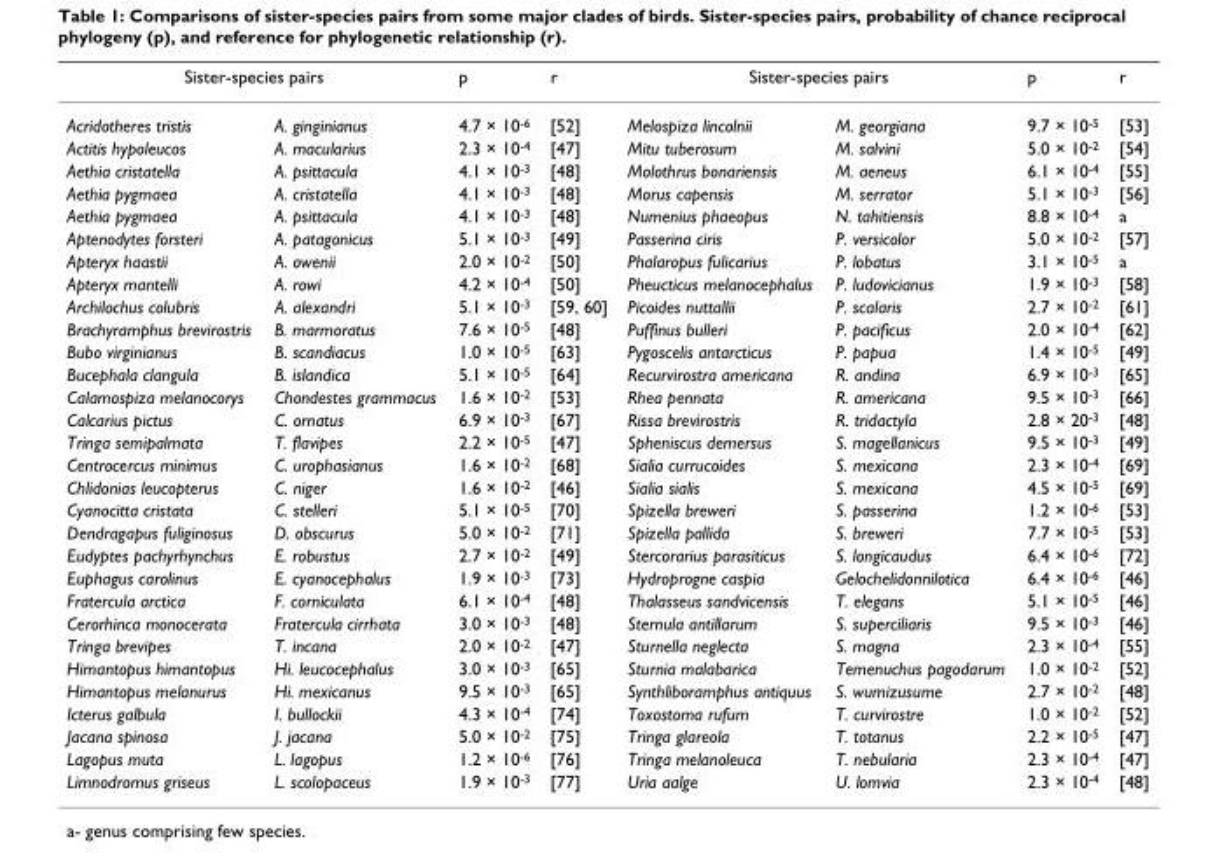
<table><thead><tr><td colspan="2">Sister-species pairs</td><td rowspan="2">p 4.7 × 10<sup>-6</sup></td><td rowspan="2">r [52]</td><td colspan="2">Sister-species pairs</td><td rowspan="2">p 9.7 × 10<sup>-5</sup></td><td rowspan="2">r [53]</td></tr><tr><td>Acridotheres tristis</td><td>A. ginginianus</td><td>Melospiza lincolnii</td><td>M. georgiana</td></tr></thead><tbody><tr><td>Actitis hypoleucos</td><td>A. macularius</td><td>2.3 × 10<sup>-4</sup></td><td>[47]</td><td>Mitu tuberosum</td><td>M. salvini</td><td>5.0 × 10<sup>-2</sup></td><td>[54]</td></tr><tr><td>Aethia cristatella</td><td>A. psittacula</td><td>4.1 × 10<sup>-3</sup></td><td>[48]</td><td>Molothrus bonariensis</td><td>M. aeneus</td><td>6.1 × 10<sup>-4</sup></td><td>[55]</td></tr><tr><td>Aethia pygmaea</td><td>A. cristatella</td><td>4.1 × 10<sup>-3</sup></td><td>[48]</td><td>Morus capensis</td><td>M. serrator</td><td>5.1 × 10<sup>-3</sup></td><td>[56]</td></tr><tr><td>Aethia pygmaea</td><td>A. psittacula</td><td>4.1 × 10<sup>-3</sup></td><td>[48]</td><td>Numenius phaeopus</td><td>N. tahitiensis</td><td>8.8 × 10<sup>-4</sup></td><td>a</td></tr><tr><td>Aptenodytes forsteri</td><td>A. patagonicus</td><td>5.1 × 10<sup>-3</sup></td><td>[49]</td><td>Passerina ciris</td><td>P. versicolor</td><td>5.0 × 10<sup>-2</sup></td><td>[57]</td></tr><tr><td>Apteryx haastii</td><td>A. owenii</td><td>2.0 × 10<sup>-2</sup></td><td>[50]</td><td>Phalaropus fulicarius</td><td>P. lobatus</td><td>3.1 × 10<sup>-5</sup></td><td>a</td></tr><tr><td>Apteryx mantelli</td><td>A. rowi</td><td>4.2 × 10<sup>-4</sup></td><td>[50]</td><td>Pheucticus melanocephalus</td><td>P. ludovicianus</td><td>1.9 × 10<sup>-3</sup></td><td>[58]</td></tr><tr><td>Archilochus colubris</td><td>A. alexandri</td><td>5.1 × 10<sup>-3</sup></td><td>[59, 60]</td><td>Picoides nuttallii</td><td>P. scalaris</td><td>2.7 × 10<sup>-2</sup></td><td>[61]</td></tr><tr><td>Brachyramphus brevirostris</td><td>B. marmoratus</td><td>7.6 × 10<sup>-5</sup></td><td>[48]</td><td>Puffinus bulleri</td><td>P. pacificus</td><td>2.0 × 10<sup>-4</sup></td><td>[62]</td></tr><tr><td>Bubo virginianus</td><td>B. scandiacus</td><td>1.0 × 10<sup>-5</sup></td><td>[63]</td><td>Pygoscelis antarcticus</td><td>P. papua</td><td>1.4 × 10<sup>-5</sup></td><td>[49]</td></tr><tr><td>Bucephala clangula</td><td>B. islandica</td><td>5.1 × 10<sup>-5</sup></td><td>[64]</td><td>Recurvirostra americana</td><td>R. andina</td><td>6.9 × 10<sup>-3</sup></td><td>[65]</td></tr><tr><td>Calamospiza melanocorys</td><td>Chondestes grammacus</td><td>1.6 × 10<sup>-2</sup></td><td>[53]</td><td>Rhea pennata</td><td>R. americana</td><td>9.5 × 10<sup>-3</sup></td><td>[66]</td></tr><tr><td>Calcarius pictus</td><td>C. ornatus</td><td>6.9 × 10<sup>-3</sup></td><td>[67]</td><td>Rissa brevirostris</td><td>R. tridactyla</td><td>2.8 × 20<sup>-3</sup></td><td>[48]</td></tr><tr><td>Tringa semipalmata</td><td>T. flavipes</td><td>2.2 × 10<sup>-5</sup></td><td>[47]</td><td>Spheniscus demersus</td><td>S. magellanicus</td><td>9.5 × 10<sup>-3</sup></td><td>[49]</td></tr><tr><td>Centrocercus minimus</td><td>C. urophasianus</td><td>1.6 × 10<sup>-2</sup></td><td>[68]</td><td>Sialia currucoides</td><td>S. mexicana</td><td>2.3 × 10<sup>-4</sup></td><td>[69]</td></tr><tr><td>Chlidonias leucopterus</td><td>C. niger</td><td>1.6 × 10<sup>-2</sup></td><td>[46]</td><td>Sialia sialis</td><td>S. mexicana</td><td>4.5 × 10<sup>-5</sup></td><td>[69]</td></tr><tr><td>Cyanocitta cristata</td><td>C. stelleri</td><td>5.1 × 10<sup>-5</sup></td><td>[70]</td><td>Spizella breweri</td><td>S. passerina</td><td>1.2 × 10<sup>-6</sup></td><td>[53]</td></tr><tr><td>Dendragapus fuliginosus</td><td>D. obscurus</td><td>5.0 × 10<sup>-2</sup></td><td>[71]</td><td>Spizella pallida</td><td>S. breweri</td><td>7.7 × 10<sup>-5</sup></td><td>[53]</td></tr><tr><td>Eudyptes pachyrhynchus</td><td>E. robustus</td><td>2.7 × 10<sup>-2</sup></td><td>[49]</td><td>Stercorarius parasiticus</td><td>S. longicaudus</td><td>6.4 × 10<sup>-6</sup></td><td>[72]</td></tr><tr><td>Euphagus carolinus</td><td>E. cyanocephalus</td><td>1.9 × 10<sup>-3</sup></td><td>[73]</td><td>Hydroprogne caspia</td><td>Gelochelidonnilotica</td><td>6.4 × 10<sup>-6</sup></td><td>[46]</td></tr><tr><td>Fratercula arctica</td><td>F. corniculata</td><td>6.1 × 10<sup>-4</sup></td><td>[48]</td><td>Thalasseus sandvicensis</td><td>T. elegans</td><td>5.1 × 10<sup>-5</sup></td><td>[46]</td></tr><tr><td>Cerorhinca monocerata</td><td>Fratercula cirrhata</td><td>3.0 × 10<sup>-3</sup></td><td>[48]</td><td>Sternula antillarum</td><td>S. superciliaris</td><td>9.5 × 10<sup>-3</sup></td><td>[46]</td></tr><tr><td>Tringa brevipes</td><td>T. incana</td><td>2.0 × 10<sup>-2</sup></td><td>[47]</td><td>Sturnella neglecta</td><td>S. magna</td><td>2.3 × 10<sup>-4</sup></td><td>[55]</td></tr><tr><td>Himantopus himantopus</td><td>Hi. leucocephalus</td><td>3.0 × 10<sup>-3</sup></td><td>[65]</td><td>Sturnia malabarica</td><td>Temenuchus pagodarum</td><td>1.0 × 10<sup>-2</sup></td><td>[52]</td></tr><tr><td>Himantopus melanurus</td><td>Hi. mexicanus</td><td>9.5 × 10<sup>-3</sup></td><td>[65]</td><td>Synthliboramphus antiquus</td><td>S. wumizusume</td><td>2.7 × 10<sup>-2</sup></td><td>[48]</td></tr><tr><td>Icterus galbula</td><td>I. bullockii</td><td>4.3 × 10<sup>-4</sup></td><td>[74]</td><td>Toxostoma rufum</td><td>T. curvirostre</td><td>1.0 × 10<sup>-2</sup></td><td>[52]</td></tr><tr><td>Jacana spinosa</td><td>J. jacana</td><td>5.0 × 10<sup>-2</sup></td><td>[75]</td><td>Tringa glareola</td><td>T. totanus</td><td>2.2 × 10<sup>-5</sup></td><td>[47]</td></tr><tr><td>Lagopus muta</td><td>L. lagopus</td><td>1.2 × 10<sup>-6</sup></td><td>[76]</td><td>Tringa melanoleuca</td><td>T. nebularia</td><td>2.3 × 10<sup>-4</sup></td><td>[47]</td></tr><tr><td>Limnodromus griseus</td><td>L. scolopaceus</td><td>1.9 × 10<sup>-3</sup></td><td>[77]</td><td>Uria aalge</td><td>U. lomvia</td><td>2.3 × 10<sup>-4</sup></td><td>[48]</td></tr></tbody></table>